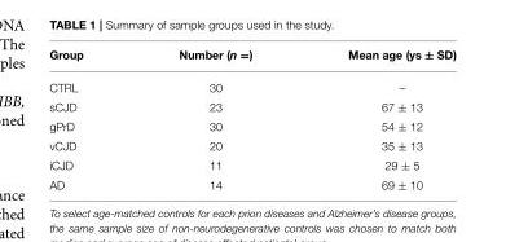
<table><thead><tr><td>Group</td><td>Number (n =)</td><td>Mean age (ys ± SD)</td></tr></thead><tbody><tr><td>CTRL</td><td>30</td><td>–</td></tr><tr><td>sCJD</td><td>23</td><td>67 ± 13</td></tr><tr><td>gPrD</td><td>30</td><td>54 ± 12</td></tr><tr><td>vCJD</td><td>20</td><td>35 ± 13</td></tr><tr><td>iCJD</td><td>11</td><td>29 ± 5</td></tr><tr><td>AD</td><td>14</td><td>69 ± 10</td></tr></tbody></table>